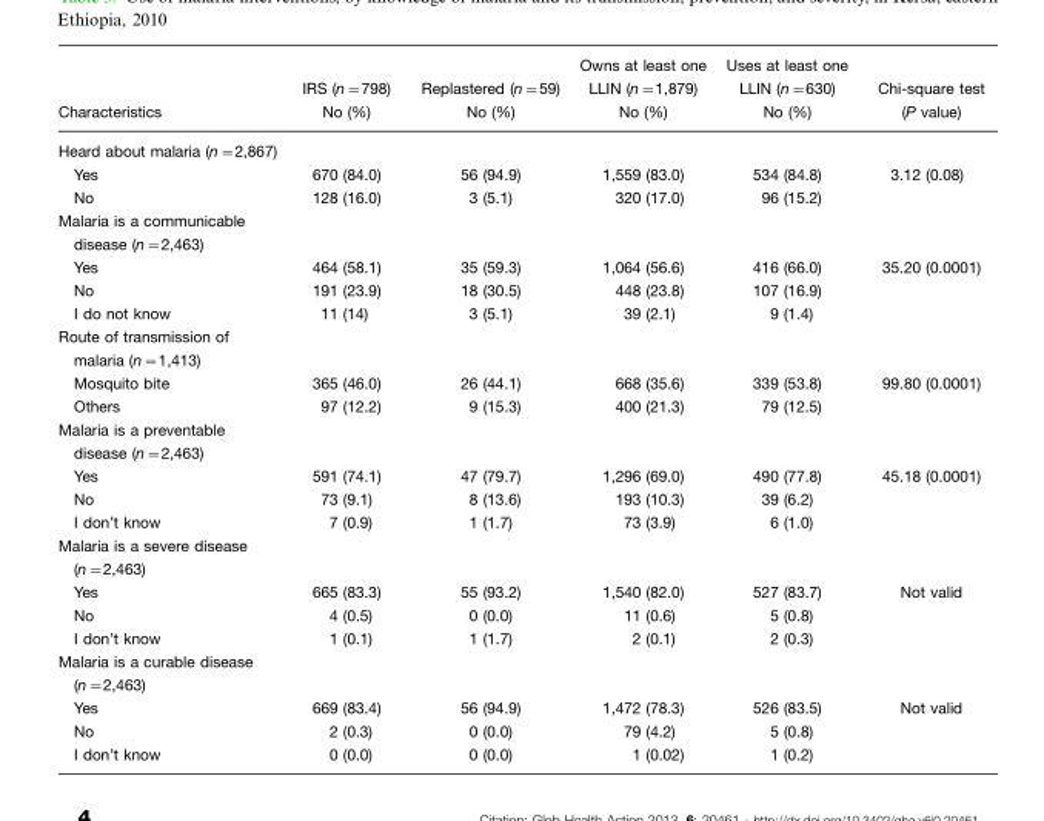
<table><thead><tr><td>Characteristics</td><td>IRS (n=798) No (%)</td><td>Replastered (n=59) No (%)</td><td>Owns at least one LLIN (n=1,879) No (%)</td><td>Uses at least one LLIN (n=630) No (%)</td><td>Chi-square test (P value)</td></tr></thead><tbody><tr><td colspan="6">Heard about malaria (n=2,867)</td></tr><tr><td>Yes</td><td>670 (84.0)</td><td>56 (94.9)</td><td>1,559 (83.0)</td><td>534 (84.8)</td><td>3.12 (0.08)</td></tr><tr><td>No</td><td>128 (16.0)</td><td>3 (5.1)</td><td>320 (17.0)</td><td>96 (15.2)</td><td></td></tr><tr><td colspan="6">Malaria is a communicable disease (n=2,463)</td></tr><tr><td>Yes</td><td>464 (58.1)</td><td>35 (59.3)</td><td>1,064 (56.6)</td><td>416 (66.0)</td><td>35.20 (0.0001)</td></tr><tr><td>No</td><td>191 (23.9)</td><td>18 (30.5)</td><td>448 (23.8)</td><td>107 (16.9)</td><td></td></tr><tr><td>I do not know</td><td>11 (14)</td><td>3 (5.1)</td><td>39 (2.1)</td><td>9 (1.4)</td><td></td></tr><tr><td colspan="6">Route of transmission of malaria (n=1,413)</td></tr><tr><td>Mosquito bite</td><td>365 (46.0)</td><td>26 (44.1)</td><td>668 (35.6)</td><td>339 (53.8)</td><td>99.80 (0.0001)</td></tr><tr><td>Others</td><td>97 (12.2)</td><td>9 (15.3)</td><td>400 (21.3)</td><td>79 (12.5)</td><td></td></tr><tr><td colspan="6">Malaria is a preventable disease (n=2,463)</td></tr><tr><td>Yes</td><td>591 (74.1)</td><td>47 (79.7)</td><td>1,296 (69.0)</td><td>490 (77.8)</td><td>45.18 (0.0001)</td></tr><tr><td>No</td><td>73 (9.1)</td><td>8 (13.6)</td><td>193 (10.3)</td><td>39 (6.2)</td><td></td></tr><tr><td>I don’t know</td><td>7 (0.9)</td><td>1 (1.7)</td><td>73 (3.9)</td><td>6 (1.0)</td><td></td></tr><tr><td colspan="6">Malaria is a severe disease (n=2,463)</td></tr><tr><td>Yes</td><td>665 (83.3)</td><td>55 (93.2)</td><td>1,540 (82.0)</td><td>527 (83.7)</td><td>Not valid</td></tr><tr><td>No</td><td>4 (0.5)</td><td>0 (0.0)</td><td>11 (0.6)</td><td>5 (0.8)</td><td></td></tr><tr><td>I don’t know</td><td>1 (0.1)</td><td>1 (1.7)</td><td>2 (0.1)</td><td>2 (0.3)</td><td></td></tr><tr><td colspan="6">Malaria is a curable disease (n=2,463)</td></tr><tr><td>Yes</td><td>669 (83.4)</td><td>56 (94.9)</td><td>1,472 (78.3)</td><td>526 (83.5)</td><td>Not valid</td></tr><tr><td>No</td><td>2 (0.3)</td><td>0 (0.0)</td><td>79 (4.2)</td><td>5 (0.8)</td><td></td></tr><tr><td>I don’t know</td><td>0 (0.0)</td><td>0 (0.0)</td><td>1 (0.02)</td><td>1 (0.2)</td><td></td></tr></tbody></table>